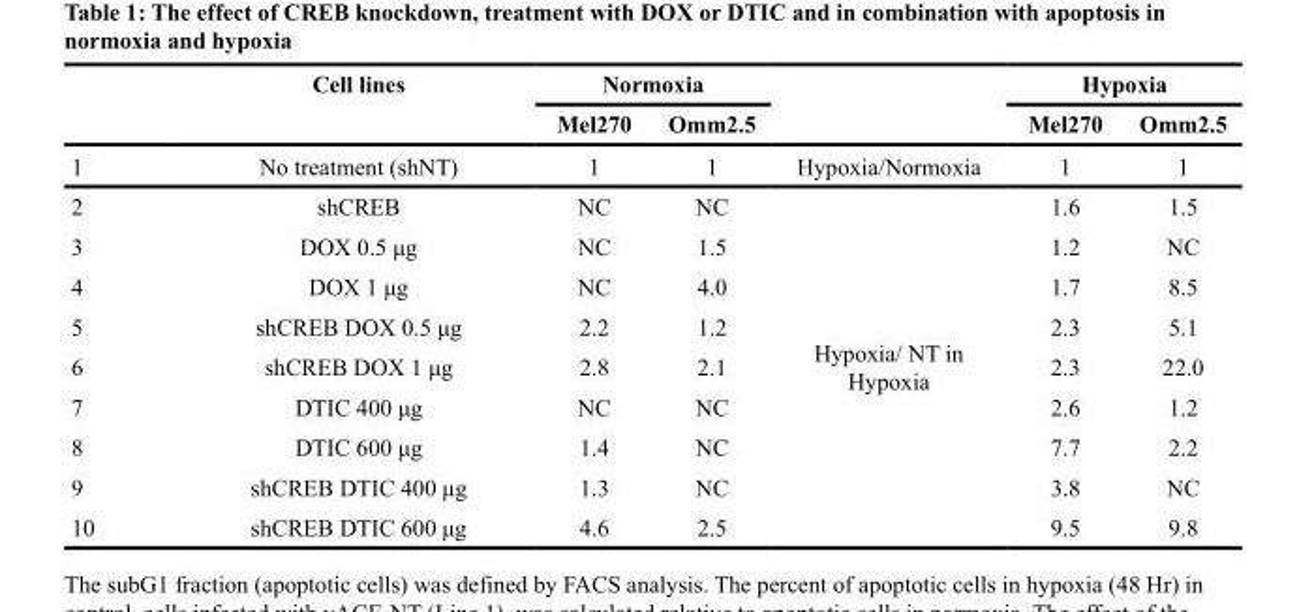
<table><thead><tr><td rowspan="2"></td><td rowspan="2">Cell lines</td><td colspan="2">Normoxia</td><td rowspan="2"></td><td colspan="2">Hypoxia</td></tr><tr><td>Mel270</td><td>Omm2.5</td><td>Mel270</td><td>Omm2.5</td></tr></thead><tbody><tr><td>1</td><td>No treatment (shNT)</td><td>1</td><td>1</td><td>Hypoxia/Normoxia</td><td>1</td><td>1</td></tr><tr><td>2</td><td>shCREB</td><td>NC</td><td>NC</td><td rowspan="9">Hypoxia/ NT in Hypoxia</td><td>1.6</td><td>1.5</td></tr><tr><td>3</td><td>DOX 0.5 μg</td><td>NC</td><td>1.5</td><td>1.2</td><td>NC</td></tr><tr><td>4</td><td>DOX 1 μg</td><td>NC</td><td>4.0</td><td>1.7</td><td>8.5</td></tr><tr><td>5</td><td>shCREB DOX 0.5 μg</td><td>2.2</td><td>1.2</td><td>2.3</td><td>5.1</td></tr><tr><td>6</td><td>shCREB DOX 1 μg</td><td>2.8</td><td>2.1</td><td>2.3</td><td>22.0</td></tr><tr><td>7</td><td>DTIC 400 μg</td><td>NC</td><td>NC</td><td>2.6</td><td>1.2</td></tr><tr><td>8</td><td>DTIC 600 μg</td><td>1.4</td><td>NC</td><td>7.7</td><td>2.2</td></tr><tr><td>9</td><td>shCREB DTIC 400 μg</td><td>1.3</td><td>NC</td><td>3.8</td><td>NC</td></tr><tr><td>10</td><td>shCREB DTIC 600 μg</td><td>4.6</td><td>2.5</td><td>9.5</td><td>9.8</td></tr></tbody></table>